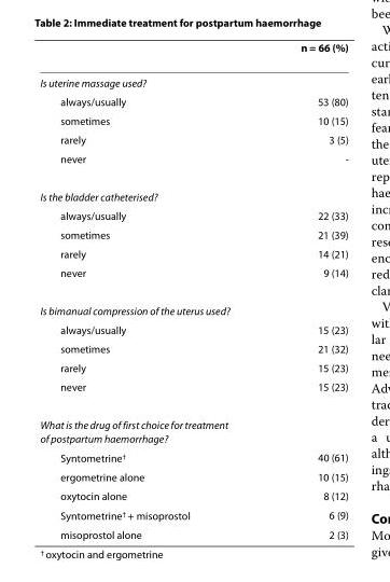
<table><thead><tr><td></td><td>n = 66 (%)</td></tr></thead><tbody><tr><td colspan="2">Is uterine massage used?</td></tr><tr><td>always/usually</td><td>53 (80)</td></tr><tr><td>sometimes</td><td>10 (15)</td></tr><tr><td>rarely</td><td>3 (5)</td></tr><tr><td>never</td><td>-</td></tr><tr><td colspan="2">Is the bladder catheterised?</td></tr><tr><td>always/usually</td><td>22 (33)</td></tr><tr><td>sometimes</td><td>21 (39)</td></tr><tr><td>rarely</td><td>14 (21)</td></tr><tr><td>never</td><td>9 (14)</td></tr><tr><td colspan="2">Is bimanual compression of the uterus used?</td></tr><tr><td>always/usually</td><td>15 (23)</td></tr><tr><td>sometimes</td><td>21 (32)</td></tr><tr><td>rarely</td><td>15 (23)</td></tr><tr><td>never</td><td>15 (23)</td></tr><tr><td colspan="2">What is the drug of first choice for treatment of postpartum haemorrhage?</td></tr><tr><td>Syntometrine<sup>†</sup></td><td>40 (61)</td></tr><tr><td>ergometrine alone</td><td>10 (15)</td></tr><tr><td>oxytocin alone</td><td>8 (12)</td></tr><tr><td>Syntometrine<sup>†</sup> + misoprostol</td><td>6 (9)</td></tr><tr><td>misoprostol alone</td><td>2 (3)</td></tr></tbody></table>